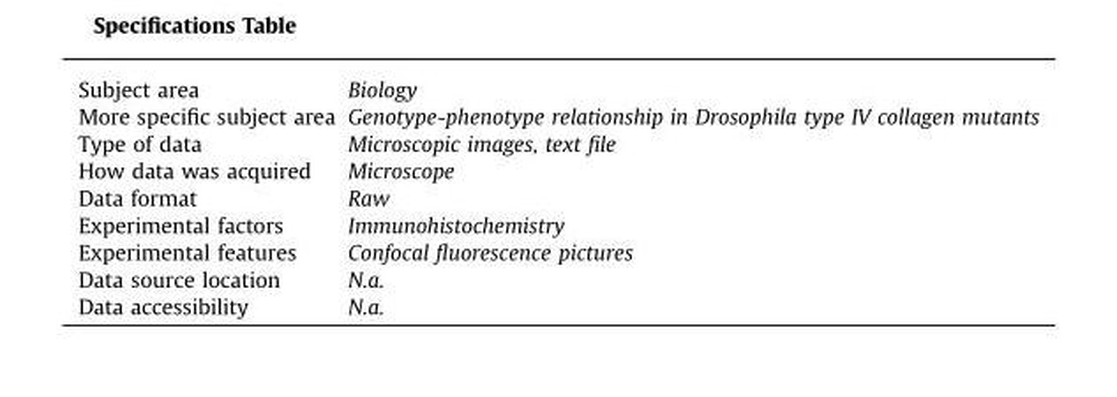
<table><tbody><tr><td>Subject area</td><td>Biology</td></tr><tr><td>More specific subject area</td><td>Genotype-phenotype relationship in Drosophila type IV collagen mutants</td></tr><tr><td>Type of data</td><td>Microscopic images, text file</td></tr><tr><td>How data was acquired</td><td>Microscope</td></tr><tr><td>Data format</td><td>Raw</td></tr><tr><td>Experimental factors</td><td>Immunohistochemistry</td></tr><tr><td>Experimental features</td><td>Confocal fluorescence pictures</td></tr><tr><td>Data source location</td><td>N.a.</td></tr><tr><td>Data accessibility</td><td>N.a.</td></tr></tbody></table>